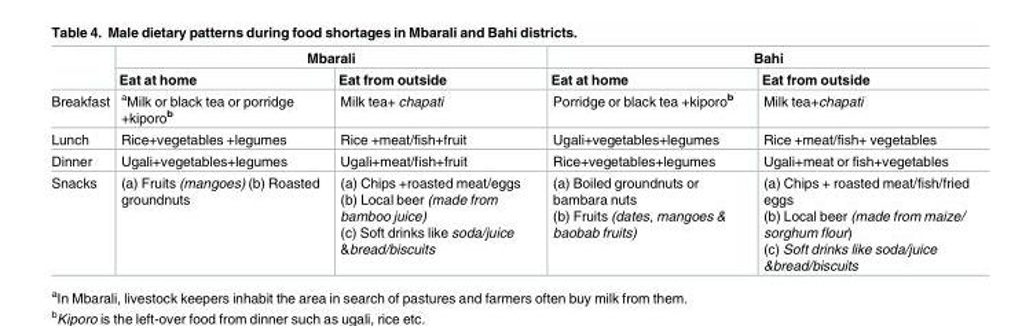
<table><thead><tr><td rowspan="2"></td><td colspan="2">Mbarali</td><td colspan="2">Bahi</td></tr><tr><td>Eat at home</td><td>Eat from outside</td><td>Eat at home</td><td>Eat from outside</td></tr></thead><tbody><tr><td>Breakfast</td><td><sup>a</sup>Milk or black tea or porridge +kiporo<sup>b</sup></td><td>Milk tea+ chapati</td><td>Porridge or black tea +kiporo<sup>b</sup></td><td>Milk tea+chapati</td></tr><tr><td>Lunch</td><td>Rice+vegetables +legumes</td><td>Rice +meat/fish+fruit</td><td>Ugali+vegetables+legumes</td><td>Rice +meat/fish+ vegetables</td></tr><tr><td>Dinner</td><td>Ugali+vegetables+legumes</td><td>Ugali+meat/fish+fruit</td><td>Rice+vegetables+legumes</td><td>Ugali+meat or fish+vegetables</td></tr><tr><td>Snacks</td><td>(a) Fruits (mangoes) (b) Roasted groundnuts</td><td>(a) Chips +roasted meat/eggs (b) Local beer (made from bamboo juice) (c) Soft drinks like soda/juice &amp;bread/biscuits</td><td>(a) Boiled groundnuts or bambara nuts (b) Fruits (dates, mangoes &amp; baobab fruits)</td><td>(a) Chips + roasted meat/fish/fried eggs (b) Local beer (made from maize/ sorghum flour) (c) Soft drinks like soda/juice &amp;bread/biscuits</td></tr></tbody></table>